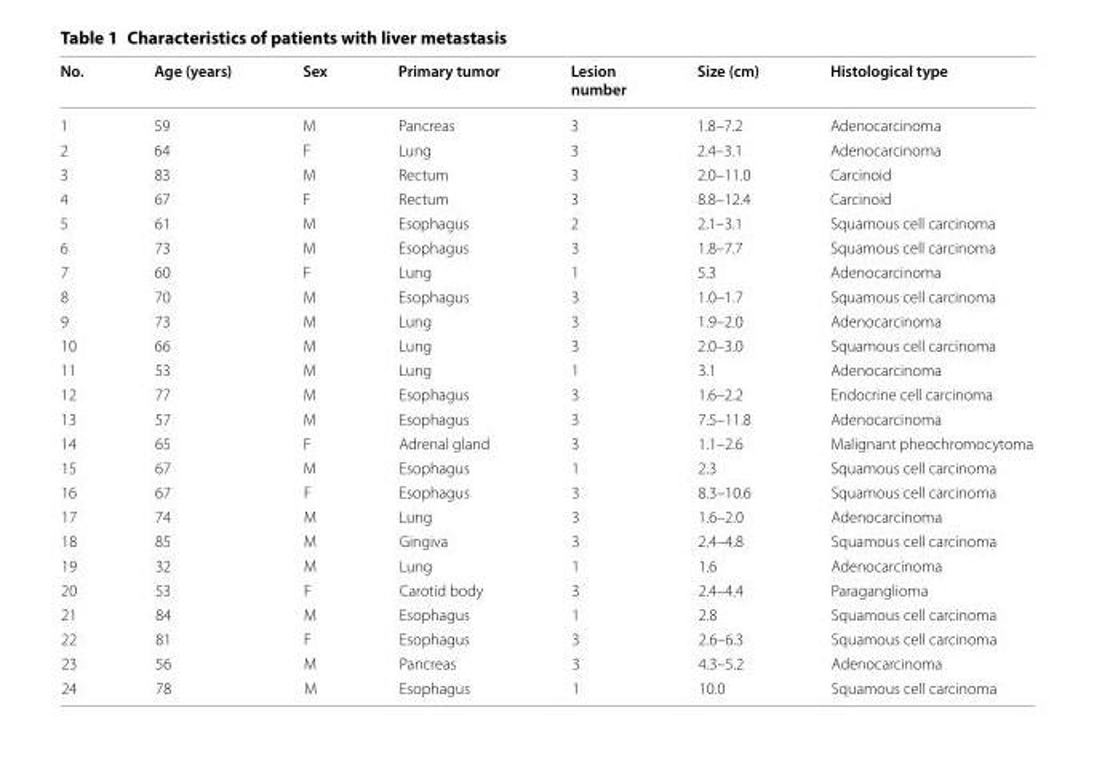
<table><thead><tr><td>No.</td><td>Age (years)</td><td>Sex</td><td>Primary tumor</td><td>Lesion number</td><td>Size (cm)</td><td>Histological type</td></tr></thead><tbody><tr><td>1</td><td>59</td><td>M</td><td>Pancreas</td><td>3</td><td>1.8–7.2</td><td>Adenocarcinoma</td></tr><tr><td>2</td><td>64</td><td>F</td><td>Lung</td><td>3</td><td>2.4–3.1</td><td>Adenocarcinoma</td></tr><tr><td>3</td><td>83</td><td>M</td><td>Rectum</td><td>3</td><td>2.0–11.0</td><td>Carcinoid</td></tr><tr><td>4</td><td>67</td><td>F</td><td>Rectum</td><td>3</td><td>8.8–12.4</td><td>Carcinoid</td></tr><tr><td>5</td><td>61</td><td>M</td><td>Esophagus</td><td>2</td><td>2.1–3.1</td><td>Squamous cell carcinoma</td></tr><tr><td>6</td><td>73</td><td>M</td><td>Esophagus</td><td>3</td><td>1.8–7.7</td><td>Squamous cell carcinoma</td></tr><tr><td>7</td><td>60</td><td>F</td><td>Lung</td><td>1</td><td>5.3</td><td>Adenocarcinoma</td></tr><tr><td>8</td><td>70</td><td>M</td><td>Esophagus</td><td>3</td><td>1.0–1.7</td><td>Squamous cell carcinoma</td></tr><tr><td>9</td><td>73</td><td>M</td><td>Lung</td><td>3</td><td>1.9–2.0</td><td>Adenocarcinoma</td></tr><tr><td>10</td><td>66</td><td>M</td><td>Lung</td><td>3</td><td>2.0–3.0</td><td>Squamous cell carcinoma</td></tr><tr><td>11</td><td>53</td><td>M</td><td>Lung</td><td>1</td><td>3.1</td><td>Adenocarcinoma</td></tr><tr><td>12</td><td>77</td><td>M</td><td>Esophagus</td><td>3</td><td>1.6–2.2</td><td>Endocrine cell carcinoma</td></tr><tr><td>13</td><td>57</td><td>M</td><td>Esophagus</td><td>3</td><td>7.5–11.8</td><td>Adenocarcinoma</td></tr><tr><td>14</td><td>65</td><td>F</td><td>Adrenal gland</td><td>3</td><td>1.1–2.6</td><td>Malignant pheochromocytoma</td></tr><tr><td>15</td><td>67</td><td>M</td><td>Esophagus</td><td>1</td><td>2.3</td><td>Squamous cell carcinoma</td></tr><tr><td>16</td><td>67</td><td>F</td><td>Esophagus</td><td>3</td><td>8.3–10.6</td><td>Squamous cell carcinoma</td></tr><tr><td>17</td><td>74</td><td>M</td><td>Lung</td><td>3</td><td>1.6–2.0</td><td>Adenocarcinoma</td></tr><tr><td>18</td><td>85</td><td>M</td><td>Gingiva</td><td>3</td><td>2.4–4.8</td><td>Squamous cell carcinoma</td></tr><tr><td>19</td><td>32</td><td>M</td><td>Lung</td><td>1</td><td>1.6</td><td>Adenocarcinoma</td></tr><tr><td>20</td><td>53</td><td>F</td><td>Carotid body</td><td>3</td><td>2.4–4.4</td><td>Paraganglioma</td></tr><tr><td>21</td><td>84</td><td>M</td><td>Esophagus</td><td>1</td><td>2.8</td><td>Squamous cell carcinoma</td></tr><tr><td>22</td><td>81</td><td>F</td><td>Esophagus</td><td>3</td><td>2.6–6.3</td><td>Squamous cell carcinoma</td></tr><tr><td>23</td><td>56</td><td>M</td><td>Pancreas</td><td>3</td><td>4.3–5.2</td><td>Adenocarcinoma</td></tr><tr><td>24</td><td>78</td><td>M</td><td>Esophagus</td><td>1</td><td>10.0</td><td>Squamous cell carcinoma</td></tr></tbody></table>